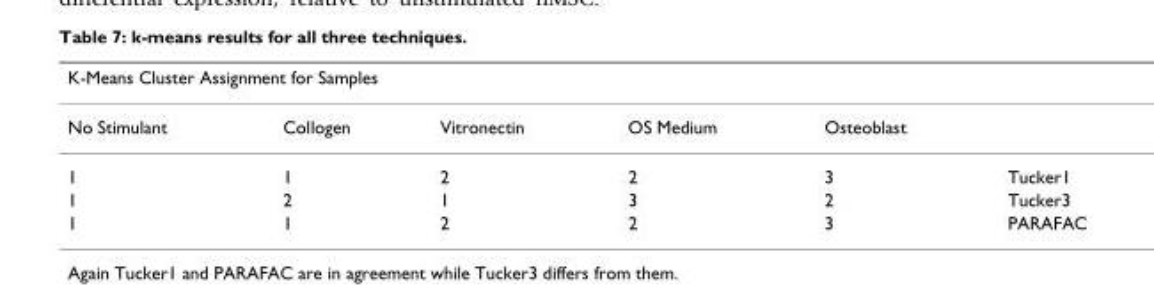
<table><thead><tr><td colspan="6">K-Means Cluster Assignment for Samples</td></tr><tr><td>No Stimulant</td><td>Collogen</td><td>Vitronectin</td><td>OS Medium</td><td>Osteoblast</td><td></td></tr></thead><tbody><tr><td>1</td><td>1</td><td>2</td><td>2</td><td>3</td><td>Tucker1</td></tr><tr><td>1</td><td>2</td><td>1</td><td>3</td><td>2</td><td>Tucker3</td></tr><tr><td>1</td><td>1</td><td>2</td><td>2</td><td>3</td><td>PARAFAC</td></tr></tbody></table>